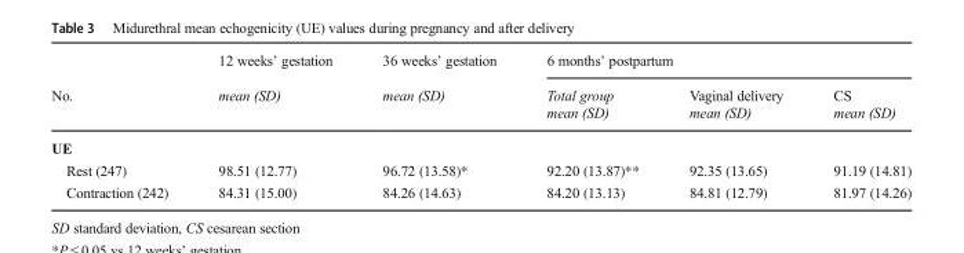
<table><thead><tr><td rowspan="3">No.</td><td rowspan="3">12 weeks’ gestation mean (SD)</td><td rowspan="3">36 weeks’ gestation mean (SD)</td><td colspan="3">6 months’ postpartum</td></tr><tr><td rowspan="2">Total group mean (SD)</td><td rowspan="2">Vaginal delivery mean (SD)</td><td rowspan="2">CS mean (SD)</td></tr><tr></tr></thead><tbody><tr><td colspan="6">UE</td></tr><tr><td>Rest (247)</td><td>98.51 (12.77)</td><td>96.72 (13.58)*</td><td>92.20 (13.87)**</td><td>92.35 (13.65)</td><td>91.19 (14.81)</td></tr><tr><td>Contraction (242)</td><td>84.31 (15.00)</td><td>84.26 (14.63)</td><td>84.20 (13.13)</td><td>84.81 (12.79)</td><td>81.97 (14.26)</td></tr></tbody></table>